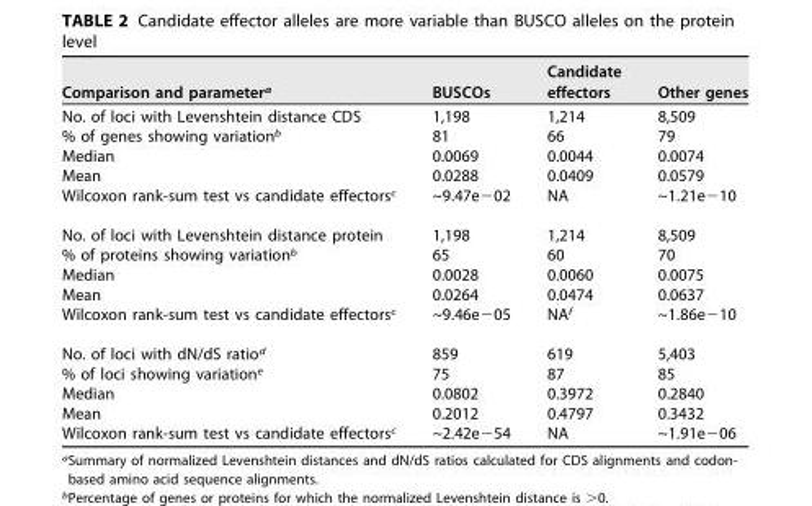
<table><thead><tr><td>Comparison and parameter<sup>a</sup></td><td>BUSCOs</td><td>Candidate effectors</td><td>Other genes</td></tr></thead><tbody><tr><td>No. of loci with Levenshtein distance CDS</td><td>1,198</td><td>1,214</td><td>8,509</td></tr><tr><td>% of genes showing variation<sup>b</sup></td><td>81</td><td>66</td><td>79</td></tr><tr><td>Median</td><td>0.0069</td><td>0.0044</td><td>0.0074</td></tr><tr><td>Mean</td><td>0.0288</td><td>0.0409</td><td>0.0579</td></tr><tr><td>Wilcoxon rank-sum test vs candidate effectors<sup>c</sup></td><td>~9.47e−02</td><td>NA</td><td>~1.21e−10</td></tr><tr><td>No. of loci with Levenshtein distance protein</td><td>1,198</td><td>1,214</td><td>8,509</td></tr><tr><td>% of proteins showing variation<sup>b</sup></td><td>65</td><td>60</td><td>70</td></tr><tr><td>Median</td><td>0.0028</td><td>0.0060</td><td>0.0075</td></tr><tr><td>Mean</td><td>0.0264</td><td>0.0474</td><td>0.0637</td></tr><tr><td>Wilcoxon rank-sum test vs candidate effectors<sup>c</sup></td><td>~9.46e−05</td><td>NA<sup>f</sup></td><td>~1.86e−10</td></tr><tr><td>No. of loci with dN/dS ratio<sup>d</sup></td><td>859</td><td>619</td><td>5,403</td></tr><tr><td>% of loci showing variation<sup>e</sup></td><td>75</td><td>87</td><td>85</td></tr><tr><td>Median</td><td>0.0802</td><td>0.3972</td><td>0.2840</td></tr><tr><td>Mean</td><td>0.2012</td><td>0.4797</td><td>0.3432</td></tr><tr><td>Wilcoxon rank-sum test vs candidate effectors<sup>c</sup></td><td>~2.42e−54</td><td>NA</td><td>~1.91e−06</td></tr></tbody></table>